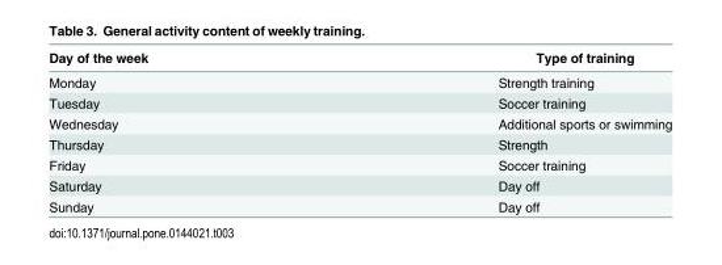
<table><thead><tr><td>Day of the week</td><td>Type of training</td></tr></thead><tbody><tr><td>Monday</td><td>Strength training</td></tr><tr><td>Tuesday</td><td>Soccer training</td></tr><tr><td>Wednesday</td><td>Additional sports or swimming</td></tr><tr><td>Thursday</td><td>Strength</td></tr><tr><td>Friday</td><td>Soccer training</td></tr><tr><td>Saturday</td><td>Day off</td></tr><tr><td>Sunday</td><td>Day off</td></tr></tbody></table>